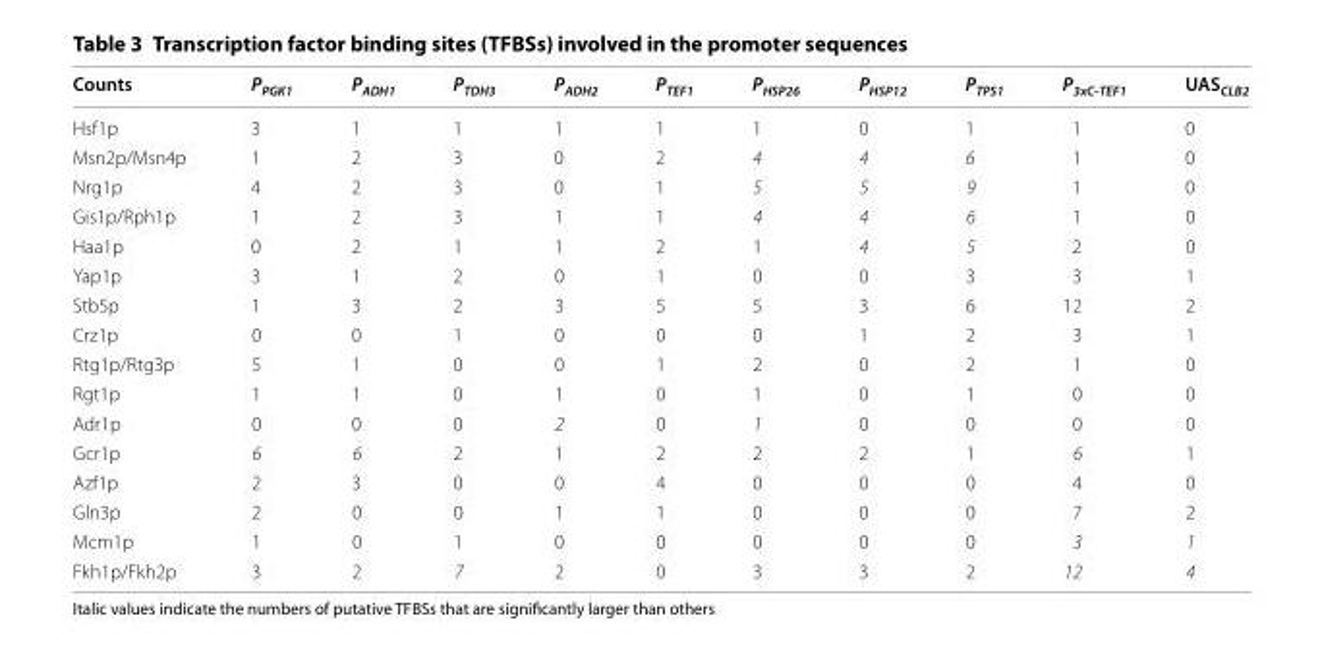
<table><thead><tr><td>Counts</td><td>P<sub>PGK1</sub></td><td>P<sub>ADH1</sub></td><td>P<sub>TDH3</sub></td><td>P<sub>ADH2</sub></td><td>P<sub>TEF1</sub></td><td>P<sub>HSP26</sub></td><td>P<sub>HSP12</sub></td><td>P<sub>TPS1</sub></td><td>P<sub>3xC-TEF1</sub></td><td>UAS<sub>CLB2</sub></td></tr></thead><tbody><tr><td>Hsf1p</td><td>3</td><td>1</td><td>1</td><td>1</td><td>1</td><td>1</td><td>0</td><td>1</td><td>1</td><td>0</td></tr><tr><td>Msn2p/Msn4p</td><td>1</td><td>2</td><td>3</td><td>0</td><td>2</td><td>4</td><td>4</td><td>6</td><td>1</td><td>0</td></tr><tr><td>Nrg1p</td><td>4</td><td>2</td><td>3</td><td>0</td><td>1</td><td>5</td><td>5</td><td>9</td><td>1</td><td>0</td></tr><tr><td>Gis1p/Rph1p</td><td>1</td><td>2</td><td>3</td><td>1</td><td>1</td><td>4</td><td>4</td><td>6</td><td>1</td><td>0</td></tr><tr><td>Haa1p</td><td>0</td><td>2</td><td>1</td><td>1</td><td>2</td><td>1</td><td>4</td><td>5</td><td>2</td><td>0</td></tr><tr><td>Yap1p</td><td>3</td><td>1</td><td>2</td><td>0</td><td>1</td><td>0</td><td>0</td><td>3</td><td>3</td><td>1</td></tr><tr><td>Stb5p</td><td>1</td><td>3</td><td>2</td><td>3</td><td>5</td><td>5</td><td>3</td><td>6</td><td>12</td><td>2</td></tr><tr><td>Crz1p</td><td>0</td><td>0</td><td>1</td><td>0</td><td>0</td><td>0</td><td>1</td><td>2</td><td>3</td><td>1</td></tr><tr><td>Rtg1p/Rtg3p</td><td>5</td><td>1</td><td>0</td><td>0</td><td>1</td><td>2</td><td>0</td><td>2</td><td>1</td><td>0</td></tr><tr><td>Rgt1p</td><td>1</td><td>1</td><td>0</td><td>1</td><td>0</td><td>1</td><td>0</td><td>1</td><td>0</td><td>0</td></tr><tr><td>Adr1p</td><td>0</td><td>0</td><td>0</td><td>2</td><td>0</td><td>1</td><td>0</td><td>0</td><td>0</td><td>0</td></tr><tr><td>Gcr1p</td><td>6</td><td>6</td><td>2</td><td>1</td><td>2</td><td>2</td><td>2</td><td>1</td><td>6</td><td>1</td></tr><tr><td>Azf1p</td><td>2</td><td>3</td><td>0</td><td>0</td><td>4</td><td>0</td><td>0</td><td>0</td><td>4</td><td>0</td></tr><tr><td>Gln3p</td><td>2</td><td>0</td><td>0</td><td>1</td><td>1</td><td>0</td><td>0</td><td>0</td><td>7</td><td>2</td></tr><tr><td>Mcm1p</td><td>1</td><td>0</td><td>1</td><td>0</td><td>0</td><td>0</td><td>0</td><td>0</td><td>3</td><td>1</td></tr><tr><td>Fkh1p/Fkh2p</td><td>3</td><td>2</td><td>7</td><td>2</td><td>0</td><td>3</td><td>3</td><td>2</td><td>12</td><td>4</td></tr></tbody></table>